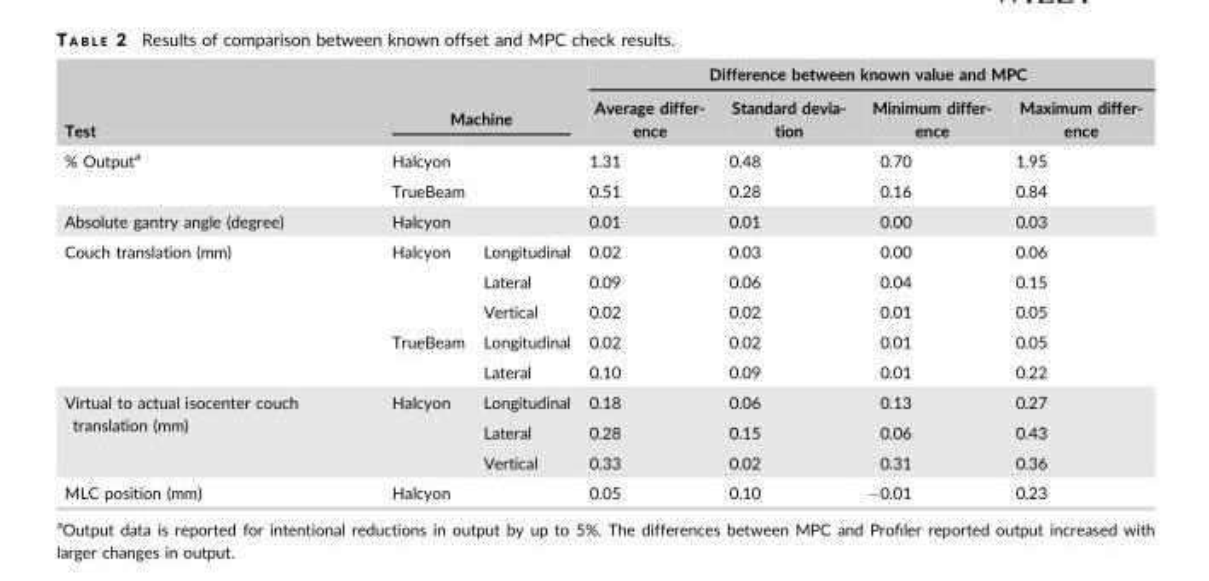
<table><thead><tr><td rowspan="2">Test</td><td rowspan="2" colspan="2">Machine</td><td colspan="4">Difference between known value and MPC</td></tr><tr><td>Average differ- ence</td><td>Standard devia- tion</td><td>Minimum differ- ence</td><td>Maximum differ- ence</td></tr></thead><tbody><tr><td rowspan="2">% Output<sup>a</sup></td><td colspan="2">Halcyon</td><td>1.31</td><td>0.48</td><td>0.70</td><td>1.95</td></tr><tr><td colspan="2">TrueBeam</td><td>0.51</td><td>0.28</td><td>0.16</td><td>0.84</td></tr><tr><td>Absolute gantry angle (degree)</td><td colspan="2">Halcyon</td><td>0.01</td><td>0.01</td><td>0.00</td><td>0.03</td></tr><tr><td rowspan="5">Couch translation (mm)</td><td rowspan="3">Halcyon</td><td>Longitudinal</td><td>0.02</td><td>0.03</td><td>0.00</td><td>0.06</td></tr><tr><td>Lateral</td><td>0.09</td><td>0.06</td><td>0.04</td><td>0.15</td></tr><tr><td>Vertical</td><td>0.02</td><td>0.02</td><td>0.01</td><td>0.05</td></tr><tr><td rowspan="2">TrueBeam</td><td>Longitudinal</td><td>0.02</td><td>0.02</td><td>0.01</td><td>0.05</td></tr><tr><td>Lateral</td><td>0.10</td><td>0.09</td><td>0.01</td><td>0.22</td></tr><tr><td rowspan="3">Virtual to actual isocenter couch translation (mm)</td><td rowspan="3">Halcyon</td><td>Longitudinal</td><td>0.18</td><td>0.06</td><td>0.13</td><td>0.27</td></tr><tr><td>Lateral</td><td>0.28</td><td>0.15</td><td>0.06</td><td>0.43</td></tr><tr><td>Vertical</td><td>0.33</td><td>0.02</td><td>0.31</td><td>0.36</td></tr><tr><td>MLC position (mm)</td><td colspan="2">Halcyon</td><td>0.05</td><td>0.10</td><td>−0.01</td><td>0.23</td></tr></tbody></table>